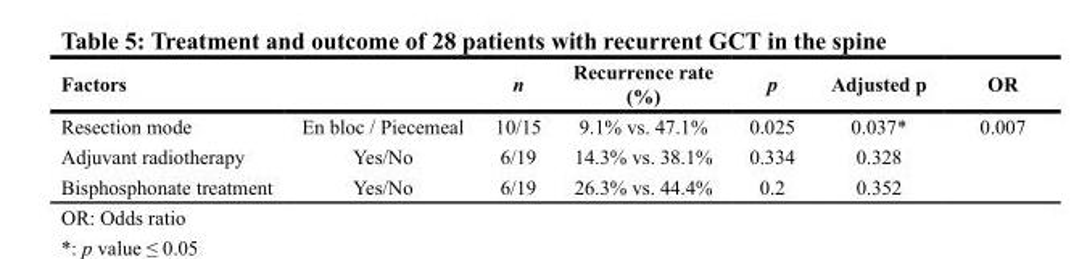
<table><thead><tr><td>Factors</td><td></td><td>n</td><td>Recurrence rate (%)</td><td>p</td><td>Adjusted p</td><td>OR</td></tr></thead><tbody><tr><td>Resection mode</td><td>En bloc / Piecemeal</td><td>10/15</td><td>9.1% vs. 47.1%</td><td>0.025</td><td>0.037*</td><td>0.007</td></tr><tr><td>Adjuvant radiotherapy</td><td>Yes/No</td><td>6/19</td><td>14.3% vs. 38.1%</td><td>0.334</td><td>0.328</td><td></td></tr><tr><td>Bisphosphonate treatment</td><td>Yes/No</td><td>6/19</td><td>26.3% vs. 44.4%</td><td>0.2</td><td>0.352</td><td></td></tr></tbody></table>